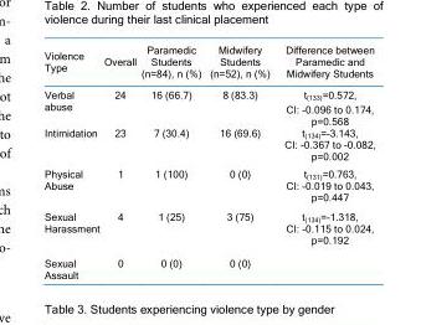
<table><thead><tr><td>Violence Type</td><td>Overall</td><td>Paramedic Students (n=84), n (%)</td><td>Midwifery Students (n=52), n (%)</td><td>Difference between Paramedic and Midwifery Students</td></tr></thead><tbody><tr><td>Verbal abuse</td><td>24</td><td>16 (66.7)</td><td>8 (83.3)</td><td>t<sub>(133)</sub>=0.572, CI: -0.096 to 0.174, p=0.568</td></tr><tr><td>Intimidation</td><td>23</td><td>7 (30.4)</td><td>16 (69.6)</td><td>t<sub>(134)</sub>=-3.143, CI: -0.367 to -0.082, p=0.002</td></tr><tr><td>Physical Abuse</td><td>1</td><td>1 (100)</td><td>0 (0)</td><td>t<sub>(131)</sub>=0.763, CI: -0.019 to 0.043, p=0.447</td></tr><tr><td>Sexual Harassment</td><td>4</td><td>1 (25)</td><td>3 (75)</td><td>t<sub>(134)</sub>=-1.318, CI: -0.115 to 0.024, p=0.192</td></tr><tr><td>Sexual Assault</td><td>0</td><td>0 (0)</td><td>0 (0)</td><td></td></tr></tbody></table>